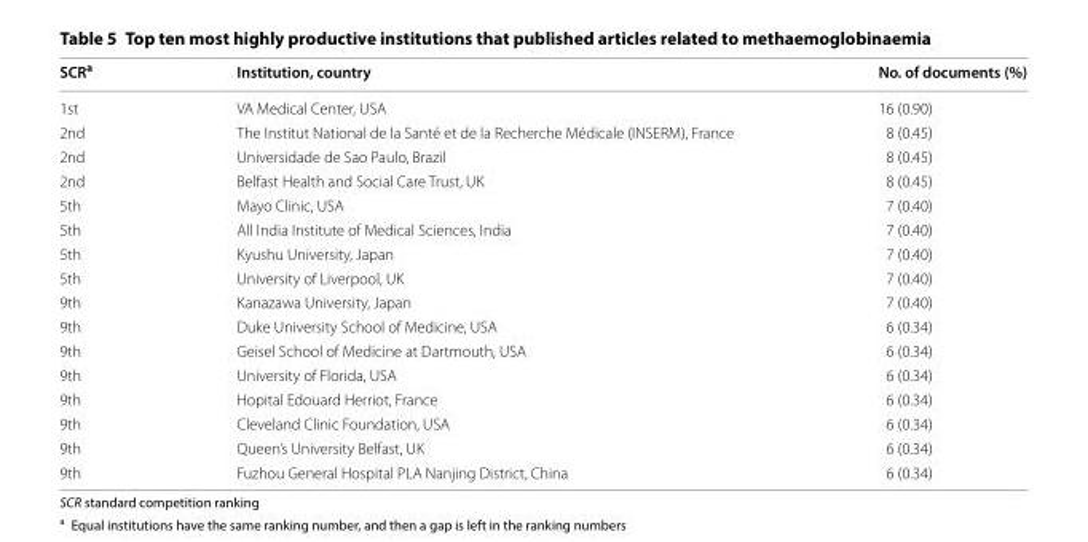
<table><thead><tr><td>SCR<sup>a</sup></td><td>Institution, country</td><td>No. of documents (%)</td></tr></thead><tbody><tr><td>1st</td><td>VA Medical Center, USA</td><td>16 (0.90)</td></tr><tr><td>2nd</td><td>The Institut National de la Santé et de la Recherche Médicale (INSERM), France</td><td>8 (0.45)</td></tr><tr><td>2nd</td><td>Universidade de Sao Paulo, Brazil</td><td>8 (0.45)</td></tr><tr><td>2nd</td><td>Belfast Health and Social Care Trust, UK</td><td>8 (0.45)</td></tr><tr><td>5th</td><td>Mayo Clinic, USA</td><td>7 (0.40)</td></tr><tr><td>5th</td><td>All India Institute of Medical Sciences, India</td><td>7 (0.40)</td></tr><tr><td>5th</td><td>Kyushu University, Japan</td><td>7 (0.40)</td></tr><tr><td>5th</td><td>University of Liverpool, UK</td><td>7 (0.40)</td></tr><tr><td>9th</td><td>Kanazawa University, Japan</td><td>7 (0.40)</td></tr><tr><td>9th</td><td>Duke University School of Medicine, USA</td><td>6 (0.34)</td></tr><tr><td>9th</td><td>Geisel School of Medicine at Dartmouth, USA</td><td>6 (0.34)</td></tr><tr><td>9th</td><td>University of Florida, USA</td><td>6 (0.34)</td></tr><tr><td>9th</td><td>Hopital Edouard Herriot, France</td><td>6 (0.34)</td></tr><tr><td>9th</td><td>Cleveland Clinic Foundation, USA</td><td>6 (0.34)</td></tr><tr><td>9th</td><td>Queen’s University Belfast, UK</td><td>6 (0.34)</td></tr><tr><td>9th</td><td>Fuzhou General Hospital PLA Nanjing District, China</td><td>6 (0.34)</td></tr></tbody></table>